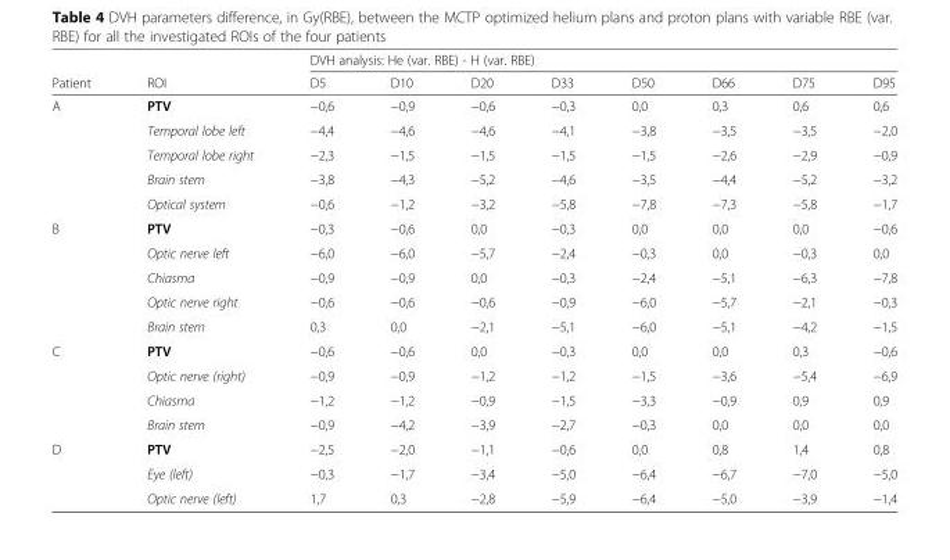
<table><thead><tr><td rowspan="2">Patient</td><td rowspan="2">ROI</td><td colspan="8">DVH analysis: He (var. RBE) - H (var. RBE)</td></tr><tr><td>D5</td><td>D10</td><td>D20</td><td>D33</td><td>D50</td><td>D66</td><td>D75</td><td>D95</td></tr></thead><tbody><tr><td rowspan="5">A</td><td>PTV</td><td>−0,6</td><td>−0,9</td><td>−0,6</td><td>−0,3</td><td>0,0</td><td>0,3</td><td>0,6</td><td>0,6</td></tr><tr><td>Temporal lobe left</td><td>−4,4</td><td>−4,6</td><td>−4,6</td><td>−4,1</td><td>−3,8</td><td>−3,5</td><td>−3,5</td><td>−2,0</td></tr><tr><td>Temporal lobe right</td><td>−2,3</td><td>−1,5</td><td>−1,5</td><td>−1,5</td><td>−1,5</td><td>−2,6</td><td>−2,9</td><td>−0,9</td></tr><tr><td>Brain stem</td><td>−3,8</td><td>−4,3</td><td>−5,2</td><td>−4,6</td><td>−3,5</td><td>−4,4</td><td>−5,2</td><td>−3,2</td></tr><tr><td>Optical system</td><td>−0,6</td><td>−1,2</td><td>−3,2</td><td>−5,8</td><td>−7,8</td><td>−7,3</td><td>−5,8</td><td>−1,7</td></tr><tr><td rowspan="5">B</td><td>PTV</td><td>−0,3</td><td>−0,6</td><td>0,0</td><td>−0,3</td><td>0,0</td><td>0,0</td><td>0,0</td><td>−0,6</td></tr><tr><td>Optic nerve left</td><td>−6,0</td><td>−6,0</td><td>−5,7</td><td>−2,4</td><td>−0,3</td><td>0,0</td><td>−0,3</td><td>0,0</td></tr><tr><td>Chiasma</td><td>−0,9</td><td>−0,9</td><td>0,0</td><td>−0,3</td><td>−2,4</td><td>−5,1</td><td>−6,3</td><td>−7,8</td></tr><tr><td>Optic nerve right</td><td>−0,6</td><td>−0,6</td><td>−0,6</td><td>−0,9</td><td>−6,0</td><td>−5,7</td><td>−2,1</td><td>−0,3</td></tr><tr><td>Brain stem</td><td>0,3</td><td>0,0</td><td>−2,1</td><td>−5,1</td><td>−6,0</td><td>−5,1</td><td>−4,2</td><td>−1,5</td></tr><tr><td rowspan="4">C</td><td>PTV</td><td>−0,6</td><td>−0,6</td><td>0,0</td><td>−0,3</td><td>0,0</td><td>0,0</td><td>0,3</td><td>−0,6</td></tr><tr><td>Optic nerve (right)</td><td>−0,9</td><td>−0,9</td><td>−1,2</td><td>−1,2</td><td>−1,5</td><td>−3,6</td><td>−5,4</td><td>−6,9</td></tr><tr><td>Chiasma</td><td>−1,2</td><td>−1,2</td><td>−0,9</td><td>−1,5</td><td>−3,3</td><td>−0,9</td><td>0,9</td><td>0,9</td></tr><tr><td>Brain stem</td><td>−0,9</td><td>−4,2</td><td>−3,9</td><td>−2,7</td><td>−0,3</td><td>0,0</td><td>0,0</td><td>0,0</td></tr><tr><td rowspan="3">D</td><td>PTV</td><td>−2,5</td><td>−2,0</td><td>−1,1</td><td>−0,6</td><td>0,0</td><td>0,8</td><td>1,4</td><td>0,8</td></tr><tr><td>Eye (left)</td><td>−0,3</td><td>−1,7</td><td>−3,4</td><td>−5,0</td><td>−6,4</td><td>−6,7</td><td>−7,0</td><td>−5,0</td></tr><tr><td>Optic nerve (left)</td><td>1,7</td><td>0,3</td><td>−2,8</td><td>−5,9</td><td>−6,4</td><td>−5,0</td><td>−3,9</td><td>−1,4</td></tr></tbody></table>